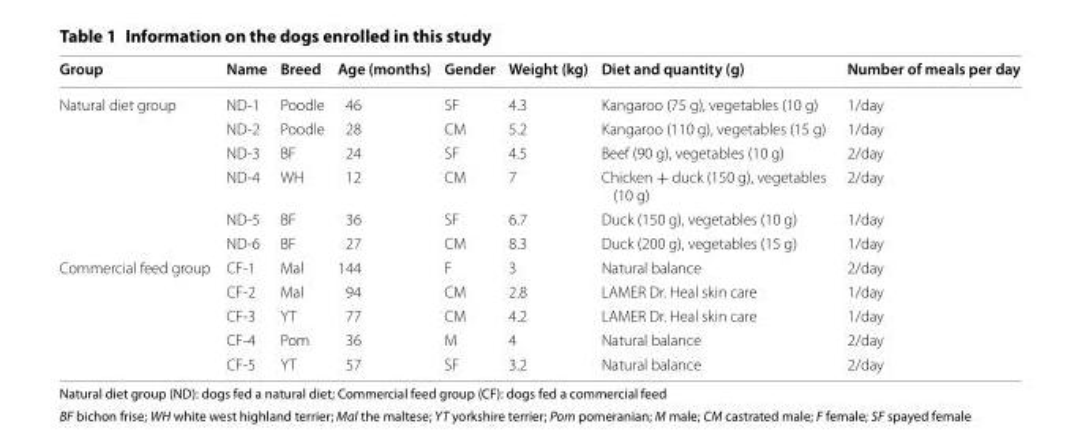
<table><thead><tr><td>Group</td><td>Name</td><td>Breed</td><td>Age (months)</td><td>Gender</td><td>Weight (kg)</td><td>Diet and quantity (g)</td><td>Number of meals per day</td></tr></thead><tbody><tr><td rowspan="6">Natural diet group</td><td>ND‑1</td><td>Poodle</td><td>46</td><td>SF</td><td>4.3</td><td>Kangaroo (75 g), vegetables (10 g)</td><td>1/day</td></tr><tr><td>ND‑2</td><td>Poodle</td><td>28</td><td>CM</td><td>5.2</td><td>Kangaroo (110 g), vegetables (15 g)</td><td>1/day</td></tr><tr><td>ND‑3</td><td>BF</td><td>24</td><td>SF</td><td>4.5</td><td>Beef (90 g), vegetables (10 g)</td><td>2/day</td></tr><tr><td>ND‑4</td><td>WH</td><td>12</td><td>CM</td><td>7</td><td>Chicken + duck (150 g), vegetables (10 g)</td><td>2/day</td></tr><tr><td>ND‑5</td><td>BF</td><td>36</td><td>SF</td><td>6.7</td><td>Duck (150 g), vegetables (10 g)</td><td>1/day</td></tr><tr><td>ND‑6</td><td>BF</td><td>27</td><td>CM</td><td>8.3</td><td>Duck (200 g), vegetables (15 g)</td><td>1/day</td></tr><tr><td rowspan="5">Commercial feed group</td><td>CF‑1</td><td>Mal</td><td>144</td><td>F</td><td>3</td><td>Natural balance</td><td>2/day</td></tr><tr><td>CF‑2</td><td>Mal</td><td>94</td><td>CM</td><td>2.8</td><td>LAMER Dr. Heal skin care</td><td>1/day</td></tr><tr><td>CF‑3</td><td>YT</td><td>77</td><td>CM</td><td>4.2</td><td>LAMER Dr. Heal skin care</td><td>1/day</td></tr><tr><td>CF‑4</td><td>Pom</td><td>36</td><td>M</td><td>4</td><td>Natural balance</td><td>2/day</td></tr><tr><td>CF‑5</td><td>YT</td><td>57</td><td>SF</td><td>3.2</td><td>Natural balance</td><td>2/day</td></tr></tbody></table>